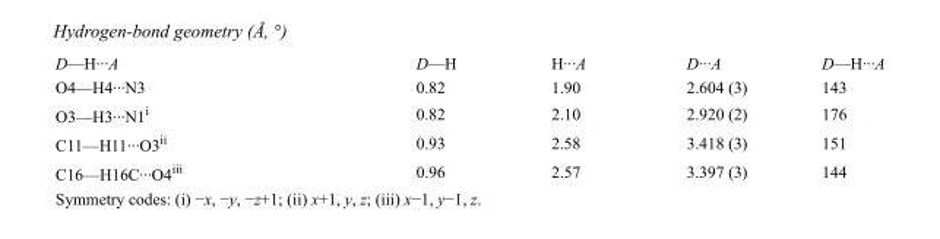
<table><tbody><tr><td>D—H···A</td><td>D—H</td><td>H···A</td><td>D···A</td><td>D—H···A</td></tr><tr><td>O4—H4···N3</td><td>0.82</td><td>1.90</td><td>2.604 (3)</td><td>143</td></tr><tr><td>O3—H3···N1<sup>i</sup></td><td>0.82</td><td>2.10</td><td>2.920 (2)</td><td>176</td></tr><tr><td>C11—H11···O3<sup>ii</sup></td><td>0.93</td><td>2.58</td><td>3.418 (3)</td><td>151</td></tr><tr><td>C16—H16C···O4<sup>iii</sup></td><td>0.96</td><td>2.57</td><td>3.397 (3)</td><td>144</td></tr></tbody></table>